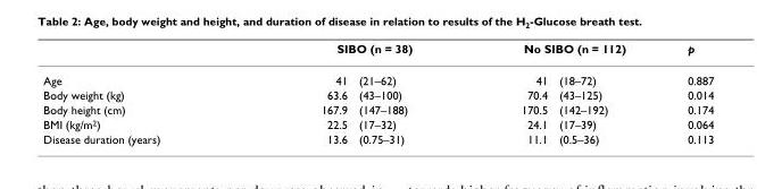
<table><thead><tr><td rowspan="2">Age</td><td colspan="2">SIBO (n = 38)</td><td colspan="2">No SIBO (n = 112)</td><td rowspan="2">p 0.887</td></tr><tr><td>41</td><td>(21–62)</td><td>41</td><td>(18–72)</td></tr></thead><tbody><tr><td>Body weight (kg)</td><td>63.6</td><td>(43–100)</td><td>70.4</td><td>(43–125)</td><td>0.014</td></tr><tr><td>Body height (cm)</td><td>167.9</td><td>(147–188)</td><td>170.5</td><td>(142–192)</td><td>0.174</td></tr><tr><td>BMI (kg/m<sup>2</sup>)</td><td>22.5</td><td>(17–32)</td><td>24.1</td><td>(17–39)</td><td>0.064</td></tr><tr><td>Disease duration (years)</td><td>13.6</td><td>(0.75–31)</td><td>11.1</td><td>(0.5–36)</td><td>0.113</td></tr></tbody></table>